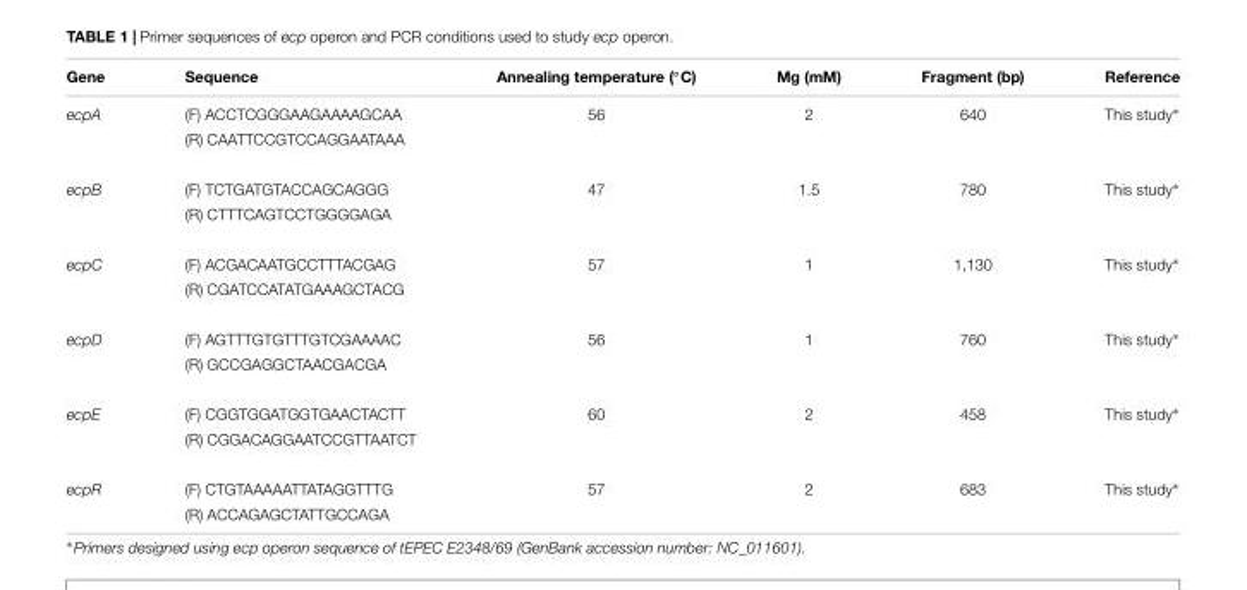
<table><thead><tr><td>Gene</td><td>Sequence</td><td>Annealing temperature (◦C)</td><td>Mg (mM)</td><td>Fragment (bp)</td><td>Reference</td></tr></thead><tbody><tr><td rowspan="2">ecpA</td><td>(F) ACCTCGGGAAGAAAAGCAA</td><td>56</td><td>2</td><td>640</td><td>This study∗</td></tr><tr><td>(R) CAATTCCGTCCAGGAATAAA</td><td></td><td></td><td></td><td></td></tr><tr><td rowspan="2">ecpB</td><td>(F) TCTGATGTACCAGCAGGG</td><td>47</td><td>1.5</td><td>780</td><td>This study∗</td></tr><tr><td>(R) CTTTCAGTCCTGGGGAGA</td><td></td><td></td><td></td><td></td></tr><tr><td rowspan="2">ecpC</td><td>(F) ACGACAATGCCTTTACGAG</td><td>57</td><td>1</td><td>1,130</td><td>This study∗</td></tr><tr><td>(R) CGATCCATATGAAAGCTACG</td><td></td><td></td><td></td><td></td></tr><tr><td rowspan="2">ecpD</td><td>(F) AGTTTGTGTTTGTCGAAAAC</td><td>56</td><td>1</td><td>760</td><td>This study∗</td></tr><tr><td>(R) GCCGAGGCTAACGACGA</td><td></td><td></td><td></td><td></td></tr><tr><td rowspan="2">ecpE</td><td>(F) CGGTGGATGGTGAACTACTT</td><td>60</td><td>2</td><td>458</td><td>This study∗</td></tr><tr><td>(R) CGGACAGGAATCCGTTAATCT</td><td></td><td></td><td></td><td></td></tr><tr><td rowspan="2">ecpR</td><td>(F) CTGTAAAAATTATAGGTTTG</td><td>57</td><td>2</td><td>683</td><td>This study∗</td></tr><tr><td>(R) ACCAGAGCTATTGCCAGA</td><td></td><td></td><td></td><td></td></tr></tbody></table>